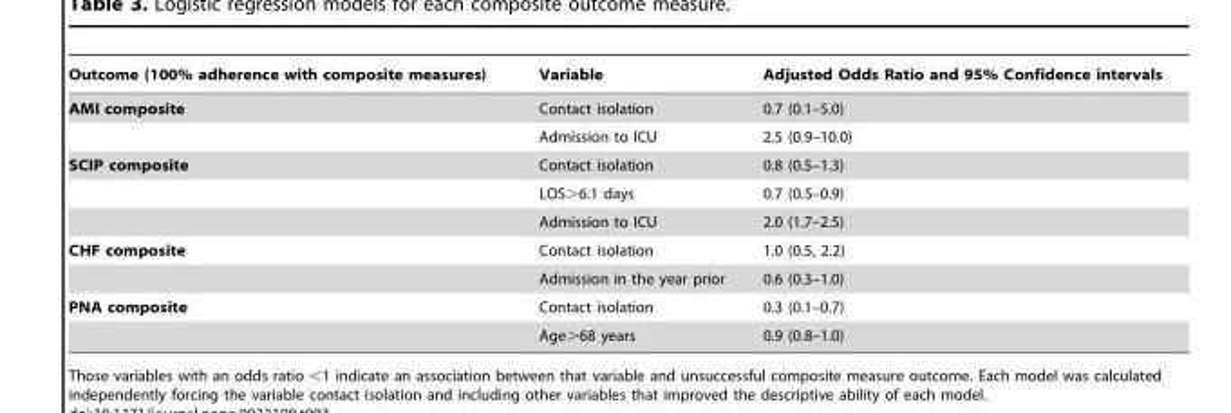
<table><thead><tr><td>Outcome (100% adherence with composite measures)</td><td>Variable</td><td>Adjusted Odds Ratio and 95% Confidence intervals</td></tr></thead><tbody><tr><td rowspan="2">AMI composite</td><td>Contact isolation</td><td>0.7 (0.1–5.0)</td></tr><tr><td>Admission to ICU</td><td>2.5 (0.9–10.0)</td></tr><tr><td rowspan="3">SCIP composite</td><td>Contact isolation</td><td>0.8 (0.5–1.3)</td></tr><tr><td>LOS&gt;6.1 days</td><td>0.7 (0.5–0.9)</td></tr><tr><td>Admission to ICU</td><td>2.0 (1.7–2.5)</td></tr><tr><td rowspan="2">CHF composite</td><td>Contact isolation</td><td>1.0 (0.5, 2.2)</td></tr><tr><td>Admission in the year prior</td><td>0.6 (0.3–1.0)</td></tr><tr><td rowspan="2">PNA composite</td><td>Contact isolation</td><td>0.3 (0.1–0.7)</td></tr><tr><td>Age&gt;68 years</td><td>0.9 (0.8–1.0)</td></tr></tbody></table>